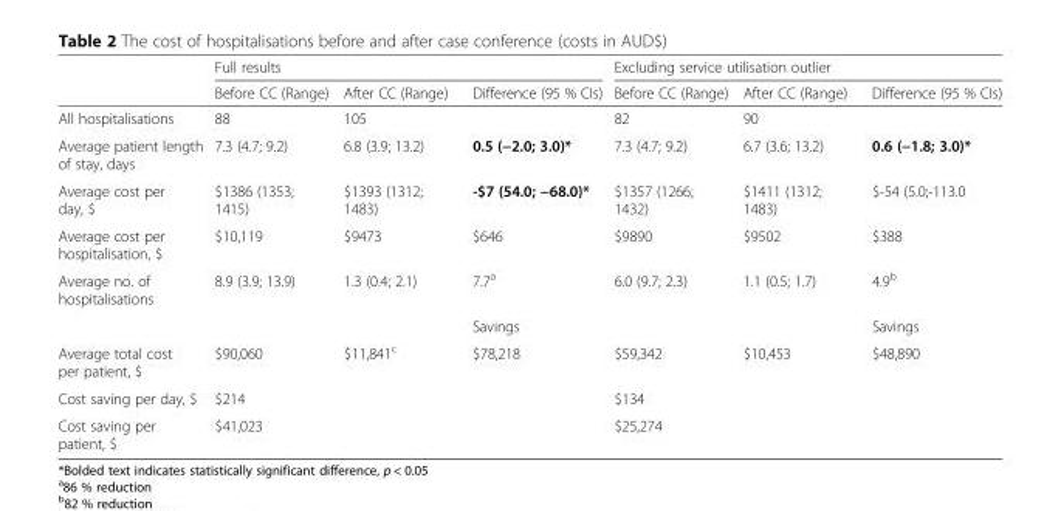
<table><thead><tr><td rowspan="2"></td><td colspan="3">Full results</td><td colspan="3">Excluding service utilisation outlier</td></tr><tr><td>Before CC (Range)</td><td>After CC (Range)</td><td>Difference (95 % CIs)</td><td>Before CC (Range)</td><td>After CC (Range)</td><td>Difference (95 % CIs)</td></tr></thead><tbody><tr><td>All hospitalisations</td><td>88</td><td>105</td><td></td><td>82</td><td>90</td><td></td></tr><tr><td>Average patient length of stay, days</td><td>7.3 (4.7; 9.2)</td><td>6.8 (3.9; 13.2)</td><td>0.5 (−2.0; 3.0)*</td><td>7.3 (4.7; 9.2)</td><td>6.7 (3.6; 13.2)</td><td>0.6 (−1.8; 3.0)*</td></tr><tr><td>Average cost per day, $</td><td>$1386 (1353; 1415)</td><td>$1393 (1312; 1483)</td><td>-$7 (54.0; −68.0)*</td><td>$1357 (1266; 1432)</td><td>$1411 (1312; 1483)</td><td>$-54 (5.0;-113.0</td></tr><tr><td>Average cost per hospitalisation, $</td><td>$10,119</td><td>$9473</td><td>$646</td><td>$9890</td><td>$9502</td><td>$388</td></tr><tr><td rowspan="2">Average no. of hospitalisations</td><td>8.9 (3.9; 13.9)</td><td>1.3 (0.4; 2.1)</td><td>7.7<sup>a</sup></td><td>6.0 (9.7; 2.3)</td><td>1.1 (0.5; 1.7)</td><td>4.9<sup>b</sup></td></tr><tr><td></td><td></td><td>Savings</td><td></td><td></td><td>Savings</td></tr><tr><td>Average total cost per patient, $</td><td>$90,060</td><td>$11,841<sup>c</sup></td><td>$78,218</td><td>$59,342</td><td>$10,453</td><td>$48,890</td></tr><tr><td>Cost saving per day, $</td><td colspan="3">$214</td><td colspan="3">$134</td></tr><tr><td>Cost saving per patient, $</td><td colspan="3">$41,023</td><td colspan="3">$25,274</td></tr></tbody></table>